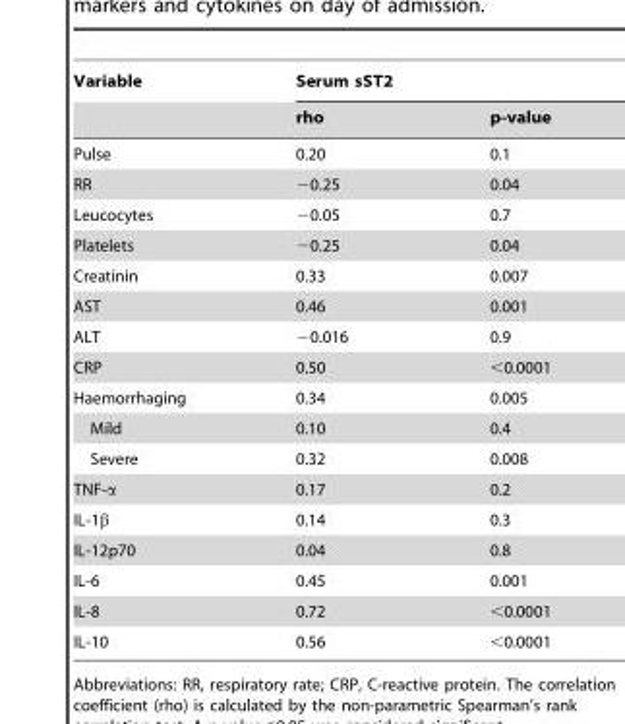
<table><thead><tr><td rowspan="2">Variable</td><td colspan="2">Serum sST2</td></tr><tr><td>rho</td><td>p-value</td></tr></thead><tbody><tr><td>Pulse</td><td>0.20</td><td>0.1</td></tr><tr><td>RR</td><td>−0.25</td><td>0.04</td></tr><tr><td>Leucocytes</td><td>−0.05</td><td>0.7</td></tr><tr><td>Platelets</td><td>−0.25</td><td>0.04</td></tr><tr><td>Creatinin</td><td>0.33</td><td>0.007</td></tr><tr><td>AST</td><td>0.46</td><td>0.001</td></tr><tr><td>ALT</td><td>−0.016</td><td>0.9</td></tr><tr><td>CRP</td><td>0.50</td><td>&lt;0.0001</td></tr><tr><td>Haemorrhaging</td><td>0.34</td><td>0.005</td></tr><tr><td>Mild</td><td>0.10</td><td>0.4</td></tr><tr><td>Severe</td><td>0.32</td><td>0.008</td></tr><tr><td>TNF-α</td><td>0.17</td><td>0.2</td></tr><tr><td>IL-1β</td><td>0.14</td><td>0.3</td></tr><tr><td>IL-12p70</td><td>0.04</td><td>0.8</td></tr><tr><td>IL-6</td><td>0.45</td><td>0.001</td></tr><tr><td>IL-8</td><td>0.72</td><td>&lt;0.0001</td></tr><tr><td>IL-10</td><td>0.56</td><td>&lt;0.0001</td></tr></tbody></table>